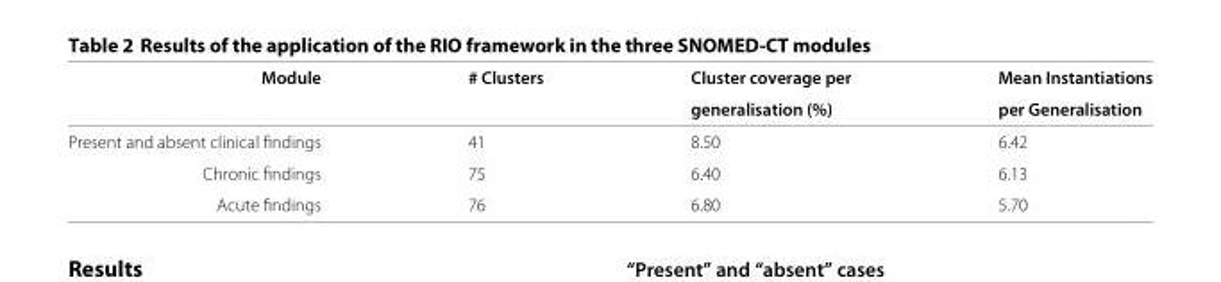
<table><thead><tr><td rowspan="2">Module</td><td rowspan="2"># Clusters</td><td rowspan="2">Cluster coverage per generalisation (%)</td><td rowspan="2">Mean Instantiations per Generalisation</td></tr><tr></tr></thead><tbody><tr><td>Present and absent clinical findings</td><td>41</td><td>8.50</td><td>6.42</td></tr><tr><td>Chronic findings</td><td>75</td><td>6.40</td><td>6.13</td></tr><tr><td>Acute findings</td><td>76</td><td>6.80</td><td>5.70</td></tr></tbody></table>